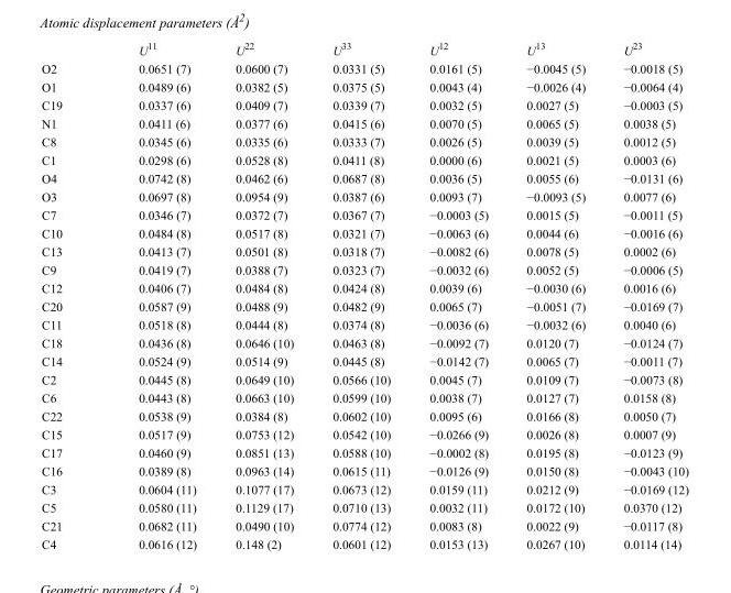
<table><thead><tr><td></td><td>U<sup>11</sup></td><td>U<sup>22</sup></td><td>U<sup>33</sup></td><td>U<sup>12</sup></td><td>U<sup>13</sup></td><td>U<sup>23</sup></td></tr></thead><tbody><tr><td>O2</td><td>0.0651 (7)</td><td>0.0600 (7)</td><td>0.0331 (5)</td><td>0.0161 (5)</td><td>−0.0045 (5)</td><td>−0.0018 (5)</td></tr><tr><td>O1</td><td>0.0489 (6)</td><td>0.0382 (5)</td><td>0.0375 (5)</td><td>0.0043 (4)</td><td>−0.0026 (4)</td><td>−0.0064 (4)</td></tr><tr><td>C19</td><td>0.0337 (6)</td><td>0.0409 (7)</td><td>0.0339 (7)</td><td>0.0032 (5)</td><td>0.0027 (5)</td><td>−0.0003 (5)</td></tr><tr><td>N1</td><td>0.0411 (6)</td><td>0.0377 (6)</td><td>0.0415 (6)</td><td>0.0070 (5)</td><td>0.0065 (5)</td><td>0.0038 (5)</td></tr><tr><td>C8</td><td>0.0345 (6)</td><td>0.0335 (6)</td><td>0.0333 (7)</td><td>0.0026 (5)</td><td>0.0039 (5)</td><td>0.0012 (5)</td></tr><tr><td>C1</td><td>0.0298 (6)</td><td>0.0528 (8)</td><td>0.0411 (8)</td><td>0.0000 (6)</td><td>0.0021 (5)</td><td>0.0003 (6)</td></tr><tr><td>O4</td><td>0.0742 (8)</td><td>0.0462 (6)</td><td>0.0687 (8)</td><td>0.0036 (5)</td><td>0.0055 (6)</td><td>−0.0131 (6)</td></tr><tr><td>O3</td><td>0.0697 (8)</td><td>0.0954 (9)</td><td>0.0387 (6)</td><td>0.0093 (7)</td><td>−0.0093 (5)</td><td>0.0077 (6)</td></tr><tr><td>C7</td><td>0.0346 (7)</td><td>0.0372 (7)</td><td>0.0367 (7)</td><td>−0.0003 (5)</td><td>0.0015 (5)</td><td>−0.0011 (5)</td></tr><tr><td>C10</td><td>0.0484 (8)</td><td>0.0517 (8)</td><td>0.0321 (7)</td><td>−0.0063 (6)</td><td>0.0044 (6)</td><td>−0.0016 (6)</td></tr><tr><td>C13</td><td>0.0413 (7)</td><td>0.0501 (8)</td><td>0.0318 (7)</td><td>−0.0082 (6)</td><td>0.0078 (5)</td><td>0.0002 (6)</td></tr><tr><td>C9</td><td>0.0419 (7)</td><td>0.0388 (7)</td><td>0.0323 (7)</td><td>−0.0032 (6)</td><td>0.0052 (5)</td><td>−0.0006 (5)</td></tr><tr><td>C12</td><td>0.0406 (7)</td><td>0.0484 (8)</td><td>0.0424 (8)</td><td>0.0039 (6)</td><td>−0.0030 (6)</td><td>0.0016 (6)</td></tr><tr><td>C20</td><td>0.0587 (9)</td><td>0.0488 (9)</td><td>0.0482 (9)</td><td>0.0065 (7)</td><td>−0.0051 (7)</td><td>−0.0169 (7)</td></tr><tr><td>C11</td><td>0.0518 (8)</td><td>0.0444 (8)</td><td>0.0374 (8)</td><td>−0.0036 (6)</td><td>−0.0032 (6)</td><td>0.0040 (6)</td></tr><tr><td>C18</td><td>0.0436 (8)</td><td>0.0646 (10)</td><td>0.0463 (8)</td><td>−0.0092 (7)</td><td>0.0120 (7)</td><td>−0.0124 (7)</td></tr><tr><td>C14</td><td>0.0524 (9)</td><td>0.0514 (9)</td><td>0.0445 (8)</td><td>−0.0142 (7)</td><td>0.0065 (7)</td><td>−0.0011 (7)</td></tr><tr><td>C2</td><td>0.0445 (8)</td><td>0.0649 (10)</td><td>0.0566 (10)</td><td>0.0045 (7)</td><td>0.0109 (7)</td><td>−0.0073 (8)</td></tr><tr><td>C6</td><td>0.0443 (8)</td><td>0.0663 (10)</td><td>0.0599 (10)</td><td>0.0038 (7)</td><td>0.0127 (7)</td><td>0.0158 (8)</td></tr><tr><td>C22</td><td>0.0538 (9)</td><td>0.0384 (8)</td><td>0.0602 (10)</td><td>0.0095 (6)</td><td>0.0166 (8)</td><td>0.0050 (7)</td></tr><tr><td>C15</td><td>0.0517 (9)</td><td>0.0753 (12)</td><td>0.0542 (10)</td><td>−0.0266 (9)</td><td>0.0026 (8)</td><td>0.0007 (9)</td></tr><tr><td>C17</td><td>0.0460 (9)</td><td>0.0851 (13)</td><td>0.0588 (10)</td><td>−0.0002 (8)</td><td>0.0195 (8)</td><td>−0.0123 (9)</td></tr><tr><td>C16</td><td>0.0389 (8)</td><td>0.0963 (14)</td><td>0.0615 (11)</td><td>−0.0126 (9)</td><td>0.0150 (8)</td><td>−0.0043 (10)</td></tr><tr><td>C3</td><td>0.0604 (11)</td><td>0.1077 (17)</td><td>0.0673 (12)</td><td>0.0159 (11)</td><td>0.0212 (9)</td><td>−0.0169 (12)</td></tr><tr><td>C5</td><td>0.0580 (11)</td><td>0.1129 (17)</td><td>0.0710 (13)</td><td>0.0032 (11)</td><td>0.0172 (10)</td><td>0.0370 (12)</td></tr><tr><td>C21</td><td>0.0682 (11)</td><td>0.0490 (10)</td><td>0.0774 (12)</td><td>0.0083 (8)</td><td>0.0022 (9)</td><td>−0.0117 (8)</td></tr><tr><td>C4</td><td>0.0616 (12)</td><td>0.148 (2)</td><td>0.0601 (12)</td><td>0.0153 (13)</td><td>0.0267 (10)</td><td>0.0114 (14)</td></tr></tbody></table>